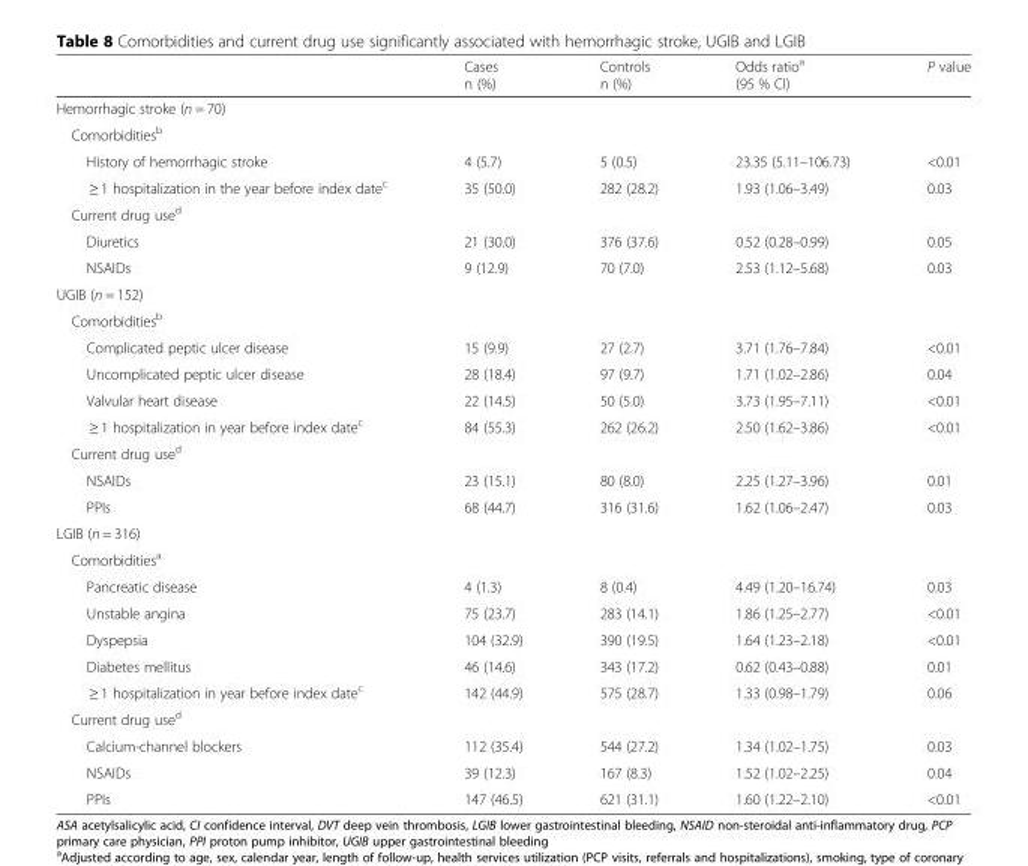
<table><thead><tr><td></td><td>Cases n (%)</td><td>Controls n (%)</td><td>Odds ratio<sup>a</sup> (95 % CI)</td><td>P value</td></tr></thead><tbody><tr><td colspan="5">Hemorrhagic stroke (n = 70)</td></tr><tr><td colspan="5">Comorbidities<sup>b</sup></td></tr><tr><td>History of hemorrhagic stroke</td><td>4 (5.7)</td><td>5 (0.5)</td><td>23.35 (5.11–106.73)</td><td>&lt;0.01</td></tr><tr><td>≥ 1 hospitalization in the year before index date<sup>c</sup></td><td>35 (50.0)</td><td>282 (28.2)</td><td>1.93 (1.06–3.49)</td><td>0.03</td></tr><tr><td colspan="5">Current drug use<sup>d</sup></td></tr><tr><td>Diuretics</td><td>21 (30.0)</td><td>376 (37.6)</td><td>0.52 (0.28–0.99)</td><td>0.05</td></tr><tr><td>NSAIDs</td><td>9 (12.9)</td><td>70 (7.0)</td><td>2.53 (1.12–5.68)</td><td>0.03</td></tr><tr><td colspan="5">UGIB (n = 152)</td></tr><tr><td colspan="5">Comorbidities<sup>b</sup></td></tr><tr><td>Complicated peptic ulcer disease</td><td>15 (9.9)</td><td>27 (2.7)</td><td>3.71 (1.76–7.84)</td><td>&lt;0.01</td></tr><tr><td>Uncomplicated peptic ulcer disease</td><td>28 (18.4)</td><td>97 (9.7)</td><td>1.71 (1.02–2.86)</td><td>0.04</td></tr><tr><td>Valvular heart disease</td><td>22 (14.5)</td><td>50 (5.0)</td><td>3.73 (1.95–7.11)</td><td>&lt;0.01</td></tr><tr><td>≥ 1 hospitalization in year before index date<sup>c</sup></td><td>84 (55.3)</td><td>262 (26.2)</td><td>2.50 (1.62–3.86)</td><td>&lt;0.01</td></tr><tr><td colspan="5">Current drug use<sup>d</sup></td></tr><tr><td>NSAIDs</td><td>23 (15.1)</td><td>80 (8.0)</td><td>2.25 (1.27–3.96)</td><td>0.01</td></tr><tr><td>PPIs</td><td>68 (44.7)</td><td>316 (31.6)</td><td>1.62 (1.06–2.47)</td><td>0.03</td></tr><tr><td colspan="5">LGIB (n = 316)</td></tr><tr><td colspan="5">Comorbidities<sup>a</sup></td></tr><tr><td>Pancreatic disease</td><td>4 (1.3)</td><td>8 (0.4)</td><td>4.49 (1.20–16.74)</td><td>0.03</td></tr><tr><td>Unstable angina</td><td>75 (23.7)</td><td>283 (14.1)</td><td>1.86 (1.25–2.77)</td><td>&lt;0.01</td></tr><tr><td>Dyspepsia</td><td>104 (32.9)</td><td>390 (19.5)</td><td>1.64 (1.23–2.18)</td><td>&lt;0.01</td></tr><tr><td>Diabetes mellitus</td><td>46 (14.6)</td><td>343 (17.2)</td><td>0.62 (0.43–0.88)</td><td>0.01</td></tr><tr><td>≥ 1 hospitalization in year before index date<sup>c</sup></td><td>142 (44.9)</td><td>575 (28.7)</td><td>1.33 (0.98–1.79)</td><td>0.06</td></tr><tr><td colspan="5">Current drug use<sup>d</sup></td></tr><tr><td>Calcium-channel blockers</td><td>112 (35.4)</td><td>544 (27.2)</td><td>1.34 (1.02–1.75)</td><td>0.03</td></tr><tr><td>NSAIDs</td><td>39 (12.3)</td><td>167 (8.3)</td><td>1.52 (1.02–2.25)</td><td>0.04</td></tr><tr><td>PPIs</td><td>147 (46.5)</td><td>621 (31.1)</td><td>1.60 (1.22–2.10)</td><td>&lt;0.01</td></tr></tbody></table>